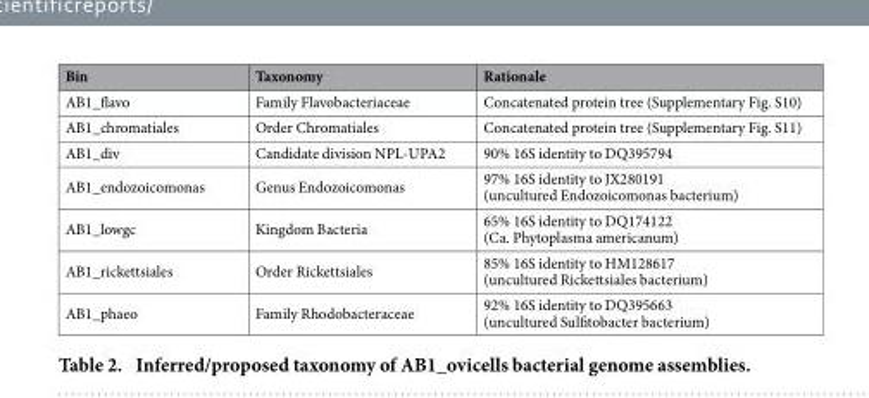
<table><thead><tr><td>Bin</td><td>Taxonomy</td><td>Rationale</td></tr></thead><tbody><tr><td>AB1_flavo</td><td>Family Flavobacteriaceae</td><td>Concatenated protein tree (Supplementary Fig. S10)</td></tr><tr><td>AB1_chromatiales</td><td>Order Chromatiales</td><td>Concatenated protein tree (Supplementary Fig. S11)</td></tr><tr><td>AB1_div</td><td>Candidate division NPL-UPA2</td><td>90% 16S identity to DQ395794</td></tr><tr><td>AB1_endozoicomonas</td><td>Genus Endozoicomonas</td><td>97% 16S identity to JX280191 (uncultured Endozoicomonas bacterium)</td></tr><tr><td>AB1_lowgc</td><td>Kingdom Bacteria</td><td>65% 16S identity to DQ174122 (Ca. Phytoplasma americanum)</td></tr><tr><td>AB1_rickettsiales</td><td>Order Rickettsiales</td><td>85% 16S identity to HM128617 (uncultured Rickettsiales bacterium)</td></tr><tr><td>AB1_phaeo</td><td>Family Rhodobacteraceae</td><td>92% 16S identity to DQ395663 (uncultured Sulfitobacter bacterium)</td></tr></tbody></table>